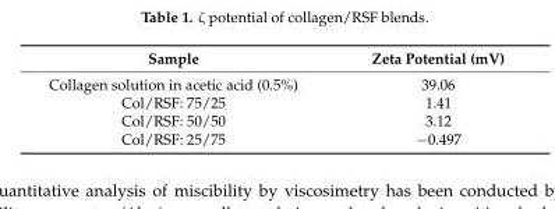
<table><thead><tr><td>Sample</td><td>Zeta Potential (mV)</td></tr></thead><tbody><tr><td>Collagen solution in acetic acid (0.5%)</td><td>39.06</td></tr><tr><td>Col/RSF: 75/25</td><td>1.41</td></tr><tr><td>Col/RSF: 50/50</td><td>3.12</td></tr><tr><td>Col/RSF: 25/75</td><td>−0.497</td></tr></tbody></table>